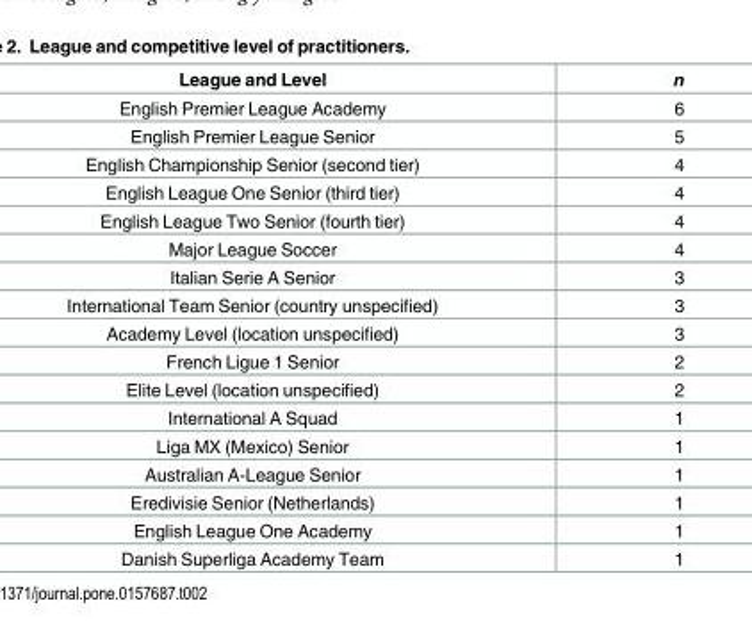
<table><thead><tr><td>League and Level</td><td>n</td></tr></thead><tbody><tr><td>English Premier League Academy</td><td>6</td></tr><tr><td>English Premier League Senior</td><td>5</td></tr><tr><td>English Championship Senior (second tier)</td><td>4</td></tr><tr><td>English League One Senior (third tier)</td><td>4</td></tr><tr><td>English League Two Senior (fourth tier)</td><td>4</td></tr><tr><td>Major League Soccer</td><td>4</td></tr><tr><td>Italian Serie A Senior</td><td>3</td></tr><tr><td>International Team Senior (country unspecified)</td><td>3</td></tr><tr><td>Academy Level (location unspecified)</td><td>3</td></tr><tr><td>French Ligue 1 Senior</td><td>2</td></tr><tr><td>Elite Level (location unspecified)</td><td>2</td></tr><tr><td>International A Squad</td><td>1</td></tr><tr><td>Liga MX (Mexico) Senior</td><td>1</td></tr><tr><td>Australian A-League Senior</td><td>1</td></tr><tr><td>Eredivisie Senior (Netherlands)</td><td>1</td></tr><tr><td>English League One Academy</td><td>1</td></tr><tr><td>Danish Superliga Academy Team</td><td>1</td></tr></tbody></table>